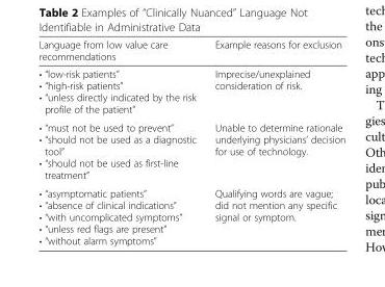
<table><thead><tr><td>Language from low value care recommendations</td><td>Example reasons for exclusion</td></tr></thead><tbody><tr><td>• “low-risk patients” • “high-risk patients” • “unless directly indicated by the risk profile of the patient”</td><td>Imprecise/unexplained consideration of risk.</td></tr><tr><td>• “must not be used to prevent” • “should not be used as a diagnostic tool” • “should not be used as first-line treatment”</td><td>Unable to determine rationale underlying physicians’ decision for use of technology.</td></tr><tr><td>• “asymptomatic patients” • “absence of clinical indications” • “with uncomplicated symptoms” • “unless red flags are present” • “without alarm symptoms”</td><td>Qualifying words are vague; did not mention any specific signal or symptom.</td></tr></tbody></table>